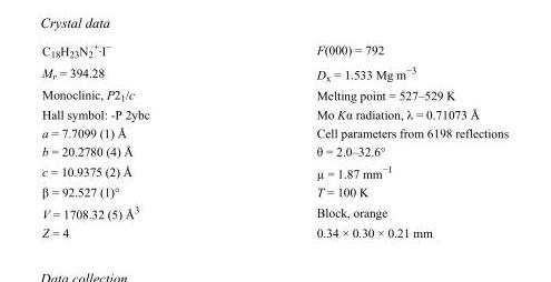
<table><tbody><tr><td>C<sub>18</sub>H<sub>23</sub>N<sub>2</sub> <sup>+</sup>·I<sup>−</sup></td><td>F(000) = 792</td></tr><tr><td>M<sub>r</sub> = 394.28</td><td>D<sub>x</sub> = 1.533 Mg m<sup>−3</sup></td></tr><tr><td>Monoclinic, P2<sub>1</sub>/c</td><td>Melting point = 527–529 K</td></tr><tr><td>Hall symbol: -P 2ybc</td><td>Mo Kα radiation, λ = 0.71073 Å</td></tr><tr><td>a = 7.7099 (1) Å</td><td>Cell parameters from 6198 reflections</td></tr><tr><td>b = 20.2780 (4) Å</td><td>θ = 2.0–32.6°</td></tr><tr><td>c = 10.9375 (2) Å</td><td>µ = 1.87 mm<sup>−1</sup></td></tr><tr><td>β = 92.527 (1)°</td><td>T = 100 K</td></tr><tr><td>V = 1708.32 (5) Å<sup>3</sup></td><td>Block, orange</td></tr><tr><td>Z = 4</td><td>0.34 × 0.30 × 0.21 mm</td></tr></tbody></table>